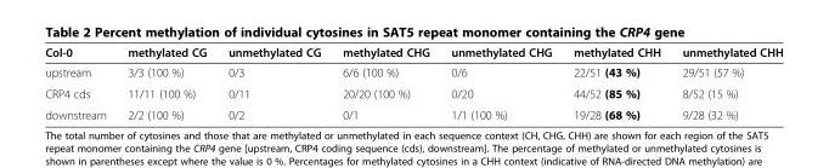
<table><thead><tr><td>Col-0</td><td>methylated CG</td><td>unmethylated CG</td><td>methylated CHG</td><td>unmethylated CHG</td><td>methylated CHH</td><td>unmethylated CHH</td></tr></thead><tbody><tr><td>upstream</td><td>3/3 (100 %)</td><td>0/3</td><td>6/6 (100 %)</td><td>0/6</td><td>22/51 (43 %)</td><td>29/51 (57 %)</td></tr><tr><td>CRP4 cds</td><td>11/11 (100 %)</td><td>0/11</td><td>20/20 (100 %)</td><td>0/20</td><td>44/52 (85 %)</td><td>8/52 (15 %)</td></tr><tr><td>downstream</td><td>2/2 (100 %)</td><td>0/2</td><td>0/1</td><td>1/1 (100 %)</td><td>19/28 (68 %)</td><td>9/28 (32 %)</td></tr></tbody></table>